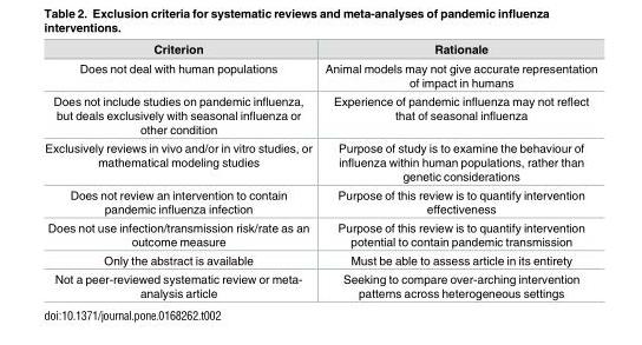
<table><thead><tr><td>Criterion</td><td>Rationale</td></tr></thead><tbody><tr><td>Does not deal with human populations</td><td>Animal models may not give accurate representation of impact in humans</td></tr><tr><td>Does not include studies on pandemic influenza, but deals exclusively with seasonal influenza or other condition</td><td>Experience of pandemic influenza may not reflect that of seasonal influenza</td></tr><tr><td>Exclusively reviews in vivo and/or in vitro studies, or mathematical modeling studies</td><td>Purpose of study is to examine the behaviour of influenza within human populations, rather than genetic considerations</td></tr><tr><td>Does not review an intervention to contain pandemic influenza infection</td><td>Purpose of this review is to quantify intervention effectiveness</td></tr><tr><td>Does not use infection/transmission risk/rate as an outcome measure</td><td>Purpose of this review is to quantify intervention potential to contain pandemic transmission</td></tr><tr><td>Only the abstract is available</td><td>Must be able to assess article in its entirety</td></tr><tr><td>Not a peer-reviewed systematic review or meta- analysis article</td><td>Seeking to compare over-arching intervention patterns across heterogeneous settings</td></tr></tbody></table>